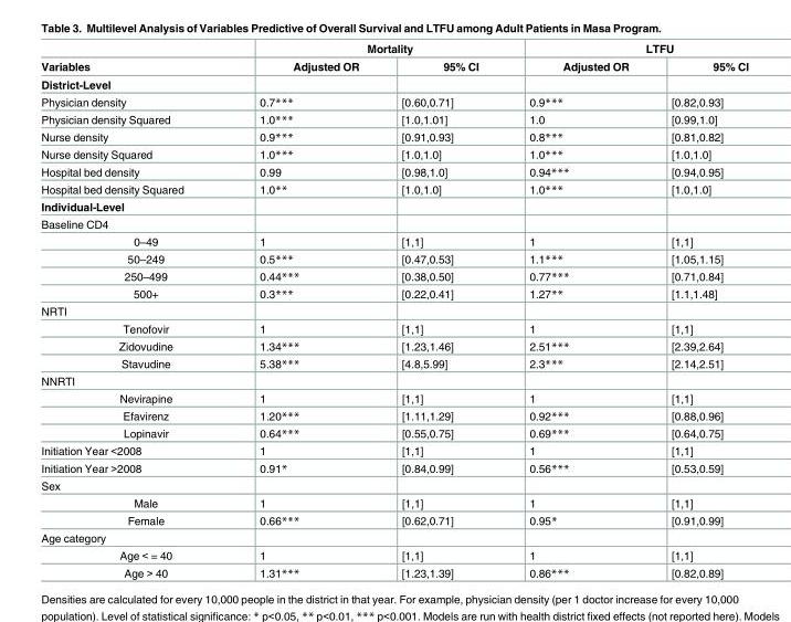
<table><thead><tr><td rowspan="2">Variables</td><td colspan="2">Mortality</td><td colspan="2">LTFU</td></tr><tr><td>Adjusted OR</td><td>95% CI</td><td>Adjusted OR</td><td>95% CI</td></tr></thead><tbody><tr><td colspan="5">District-Level</td></tr><tr><td>Physician density</td><td>0.7***</td><td>[0.60,0.71]</td><td>0.9***</td><td>[0.82,0.93]</td></tr><tr><td>Physician density Squared</td><td>1.0***</td><td>[1.0,1.01]</td><td>1.0</td><td>[0.99,1.0]</td></tr><tr><td>Nurse density</td><td>0.9***</td><td>[0.91,0.93]</td><td>0.8***</td><td>[0.81,0.82]</td></tr><tr><td>Nurse density Squared</td><td>1.0***</td><td>[1.0,1.0]</td><td>1.0***</td><td>[1.0,1.0]</td></tr><tr><td>Hospital bed density</td><td>0.99</td><td>[0.98,1.0]</td><td>0.94***</td><td>[0.94,0.95]</td></tr><tr><td>Hospital bed density Squared</td><td>1.0**</td><td>[1.0,1.0]</td><td>1.0***</td><td>[1.0,1.0]</td></tr><tr><td colspan="5">Individual-Level</td></tr><tr><td colspan="5">Baseline CD4</td></tr><tr><td>0–49</td><td>1</td><td>[1,1]</td><td>1</td><td>[1,1]</td></tr><tr><td>50–249</td><td>0.5***</td><td>[0.47,0.53]</td><td>1.1***</td><td>[1.05,1.15]</td></tr><tr><td>250–499</td><td>0.44***</td><td>[0.38,0.50]</td><td>0.77***</td><td>[0.71,0.84]</td></tr><tr><td>500+</td><td>0.3***</td><td>[0.22,0.41]</td><td>1.27**</td><td>[1.1,1.48]</td></tr><tr><td colspan="5">NRTI</td></tr><tr><td>Tenofovir</td><td>1</td><td>[1,1]</td><td>1</td><td>[1,1]</td></tr><tr><td>Zidovudine</td><td>1.34***</td><td>[1.23,1.46]</td><td>2.51***</td><td>[2.39,2.64]</td></tr><tr><td>Stavudine</td><td>5.38***</td><td>[4.8,5.99]</td><td>2.3***</td><td>[2.14,2.51]</td></tr><tr><td colspan="5">NNRTI</td></tr><tr><td>Nevirapine</td><td>1</td><td>[1,1]</td><td>1</td><td>[1,1]</td></tr><tr><td>Efavirenz</td><td>1.20***</td><td>[1.11,1.29]</td><td>0.92***</td><td>[0.88,0.96]</td></tr><tr><td>Lopinavir</td><td>0.64***</td><td>[0.55,0.75]</td><td>0.69***</td><td>[0.64,0.75]</td></tr><tr><td>Initiation Year &lt;2008</td><td>1</td><td>[1,1]</td><td>1</td><td>[1,1]</td></tr><tr><td>Initiation Year &gt;2008</td><td>0.91*</td><td>[0.84,0.99]</td><td>0.56***</td><td>[0.53,0.59]</td></tr><tr><td colspan="5">Sex</td></tr><tr><td>Male</td><td>1</td><td>[1,1]</td><td>1</td><td>[1,1]</td></tr><tr><td>Female</td><td>0.66***</td><td>[0.62,0.71]</td><td>0.95*</td><td>[0.91,0.99]</td></tr><tr><td colspan="5">Age category</td></tr><tr><td>Age &lt; = 40</td><td>1</td><td>[1,1]</td><td>1</td><td>[1,1]</td></tr><tr><td>Age &gt; 40</td><td>1.31***</td><td>[1.23,1.39]</td><td>0.86***</td><td>[0.82,0.89]</td></tr></tbody></table>